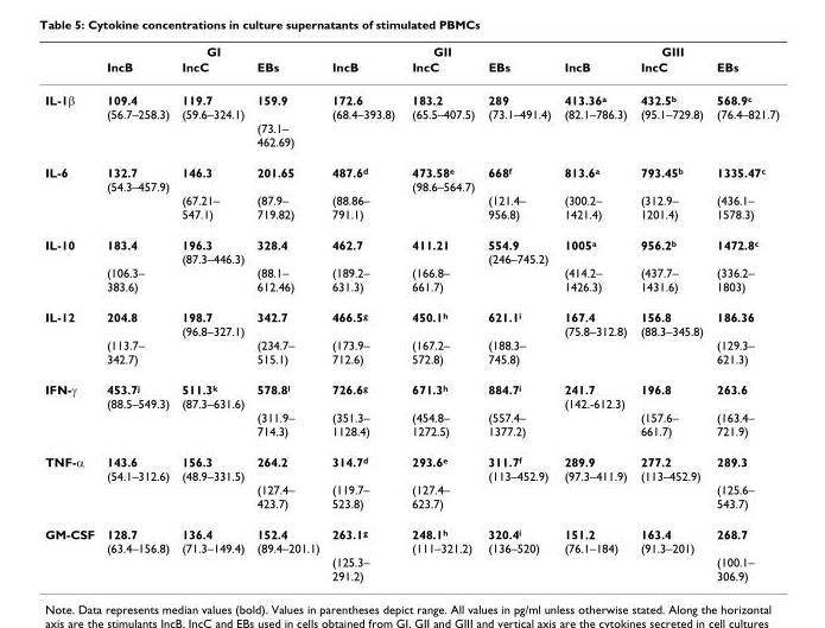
<table><thead><tr><td rowspan="2"></td><td colspan="3">GI</td><td colspan="3">GII</td><td colspan="3">GIII</td></tr><tr><td>IncB</td><td>IncC</td><td>EBs</td><td>IncB</td><td>IncC</td><td>EBs</td><td>IncB</td><td>IncC</td><td>EBs</td></tr></thead><tbody><tr><td>IL-1β</td><td>109.4 (56.7–258.3)</td><td>119.7 (59.6–324.1)</td><td>159.9 (73.1– 462.69)</td><td>172.6 (68.4–393.8)</td><td>183.2 (65.5–407.5)</td><td>289 (73.1–491.4)</td><td>413.36<sup>a</sup> (82.1–786.3)</td><td>432.5<sup>b</sup> (95.1–729.8)</td><td>568.9<sup>c</sup> (76.4–821.7)</td></tr><tr><td>IL-6</td><td>132.7 (54.3–457.9)</td><td>146.3 (67.21– 547.1)</td><td>201.65 (87.9– 719.82)</td><td>487.6<sup>d</sup> (88.86– 791.1)</td><td>473.58<sup>e</sup> (98.6–564.7)</td><td>668<sup>f</sup> (121.4– 956.8)</td><td>813.6<sup>a</sup> (300.2– 1421.4)</td><td>793.45<sup>b</sup> (312.9– 1201.4)</td><td>1335.47<sup>c</sup> (436.1– 1578.3)</td></tr><tr><td>IL-10</td><td>183.4 (106.3– 383.6)</td><td>196.3 (87.3–446.3)</td><td>328.4 (88.1– 612.46)</td><td>462.7 (189.2– 631.3)</td><td>411.21 (166.8– 661.7)</td><td>554.9 (246–745.2)</td><td>1005<sup>a</sup> (414.2– 1426.3)</td><td>956.2<sup>b</sup> (437.7– 1431.6)</td><td>1472.8<sup>c</sup> (336.2– 1803)</td></tr><tr><td>IL-12</td><td>204.8 (113.7– 342.7)</td><td>198.7 (96.8–327.1)</td><td>342.7 (234.7– 515.1)</td><td>466.5<sup>g</sup> (173.9– 712.6)</td><td>450.1<sup>h</sup> (167.2– 572.8)</td><td>621.1<sup>i</sup> (188.3– 745.8)</td><td>167.4 (75.8–312.8)</td><td>156.8 (88.3–345.8)</td><td>186.36 (129.3– 621.3)</td></tr><tr><td>IFN-γ</td><td>453.7<sup>j</sup> (88.5–549.3)</td><td>511.3<sup>k</sup> (87.3–631.6)</td><td>578.8<sup>l</sup> (311.9– 714.3)</td><td>726.6<sup>g</sup> (351.3– 1128.4)</td><td>671.3<sup>h</sup> (454.8– 1272.5)</td><td>884.7<sup>i</sup> (557.4– 1377.2)</td><td>241.7 (142.-612.3)</td><td>196.8 (157.6– 661.7)</td><td>263.6 (163.4– 721.9)</td></tr><tr><td>TNF-α</td><td>143.6 (54.1–312.6)</td><td>156.3 (48.9–331.5)</td><td>264.2 (127.4– 423.7)</td><td>314.7<sup>d</sup> (119.7– 523.8)</td><td>293.6<sup>e</sup> (127.4– 623.7)</td><td>311.7<sup>f</sup> (113–452.9)</td><td>289.9 (97.3–411.9)</td><td>277.2 (113–452.9)</td><td>289.3 (125.6– 543.7)</td></tr><tr><td>GM-CSF</td><td>128.7 (63.4–156.8)</td><td>136.4 (71.3–149.4)</td><td>152.4 (89.4–201.1)</td><td>263.1<sup>g</sup> (125.3– 291.2)</td><td>248.1<sup>h</sup> (111–321.2)</td><td>320.4<sup>i</sup> (136–520)</td><td>151.2 (76.1–184)</td><td>163.4 (91.3–201)</td><td>268.7 (100.1– 306.9)</td></tr></tbody></table>